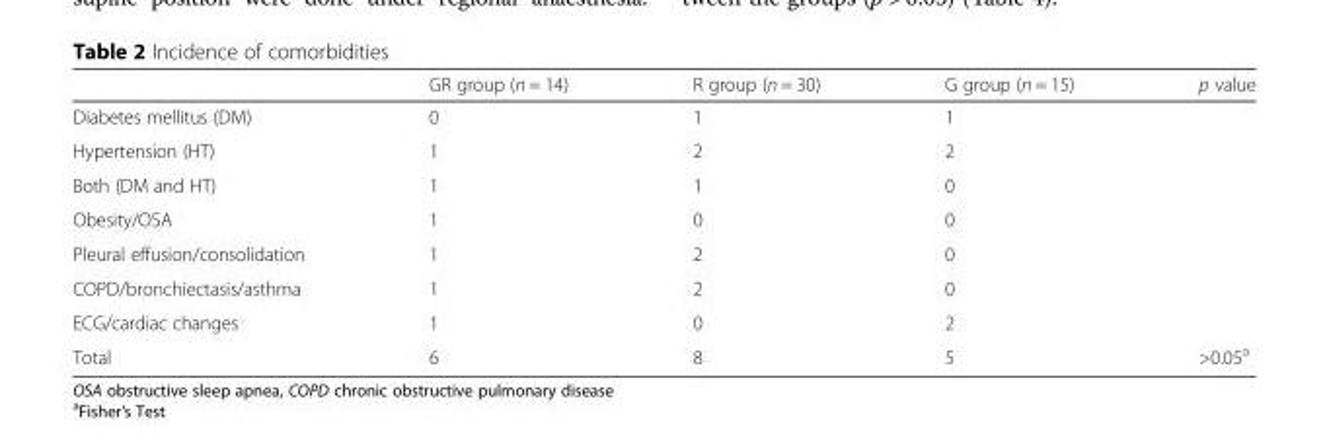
<table><thead><tr><td></td><td>GR group (n = 14)</td><td>R group (n = 30)</td><td>G group (n = 15)</td><td>p value</td></tr></thead><tbody><tr><td>Diabetes mellitus (DM)</td><td>0</td><td>1</td><td>1</td><td></td></tr><tr><td>Hypertension (HT)</td><td>1</td><td>2</td><td>2</td><td></td></tr><tr><td>Both (DM and HT)</td><td>1</td><td>1</td><td>0</td><td></td></tr><tr><td>Obesity/OSA</td><td>1</td><td>0</td><td>0</td><td></td></tr><tr><td>Pleural effusion/consolidation</td><td>1</td><td>2</td><td>0</td><td></td></tr><tr><td>COPD/bronchiectasis/asthma</td><td>1</td><td>2</td><td>0</td><td></td></tr><tr><td>ECG/cardiac changes</td><td>1</td><td>0</td><td>2</td><td></td></tr><tr><td>Total</td><td>6</td><td>8</td><td>5</td><td>&gt;0.05<sup>a</sup></td></tr></tbody></table>